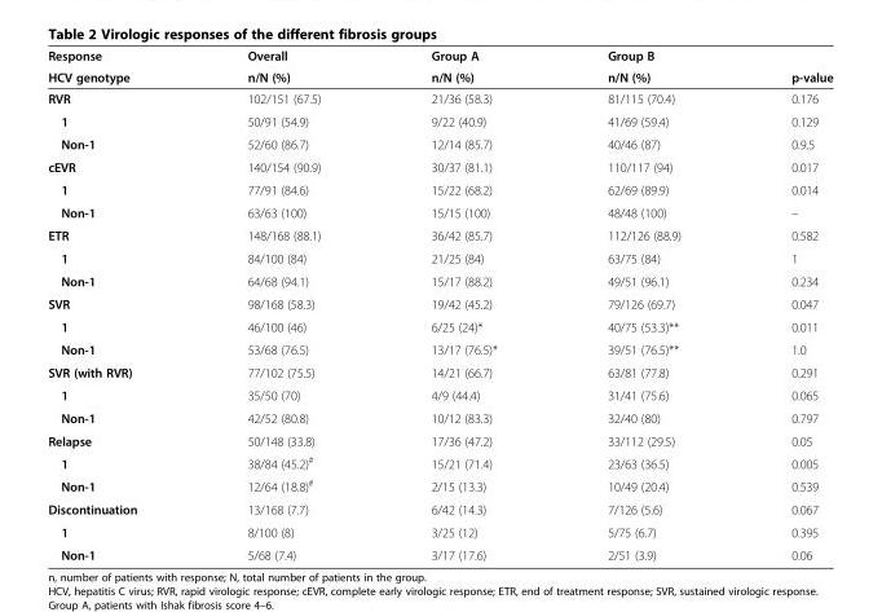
<table><thead><tr><td rowspan="2">Response HCV genotype</td><td rowspan="2">Overall n/N (%)</td><td rowspan="2">Group A n/N (%)</td><td rowspan="2">Group B n/N (%)</td><td rowspan="2">p-value</td></tr><tr></tr></thead><tbody><tr><td>RVR</td><td>102/151 (67.5)</td><td>21/36 (58.3)</td><td>81/115 (70.4)</td><td>0.176</td></tr><tr><td>1</td><td>50/91 (54.9)</td><td>9/22 (40.9)</td><td>41/69 (59.4)</td><td>0.129</td></tr><tr><td>Non-1</td><td>52/60 (86.7)</td><td>12/14 (85.7)</td><td>40/46 (87)</td><td>0.9.5</td></tr><tr><td>cEVR</td><td>140/154 (90.9)</td><td>30/37 (81.1)</td><td>110/117 (94)</td><td>0.017</td></tr><tr><td>1</td><td>77/91 (84.6)</td><td>15/22 (68.2)</td><td>62/69 (89.9)</td><td>0.014</td></tr><tr><td>Non-1</td><td>63/63 (100)</td><td>15/15 (100)</td><td>48/48 (100)</td><td>–</td></tr><tr><td>ETR</td><td>148/168 (88.1)</td><td>36/42 (85.7)</td><td>112/126 (88.9)</td><td>0.582</td></tr><tr><td>1</td><td>84/100 (84)</td><td>21/25 (84)</td><td>63/75 (84)</td><td>1</td></tr><tr><td>Non-1</td><td>64/68 (94.1)</td><td>15/17 (88.2)</td><td>49/51 (96.1)</td><td>0.234</td></tr><tr><td>SVR</td><td>98/168 (58.3)</td><td>19/42 (45.2)</td><td>79/126 (69.7)</td><td>0.047</td></tr><tr><td>1</td><td>46/100 (46)</td><td>6/25 (24)*</td><td>40/75 (53.3)**</td><td>0.011</td></tr><tr><td>Non-1</td><td>53/68 (76.5)</td><td>13/17 (76.5)*</td><td>39/51 (76.5)**</td><td>1.0</td></tr><tr><td>SVR (with RVR)</td><td>77/102 (75.5)</td><td>14/21 (66.7)</td><td>63/81 (77.8)</td><td>0.291</td></tr><tr><td>1</td><td>35/50 (70)</td><td>4/9 (44.4)</td><td>31/41 (75.6)</td><td>0.065</td></tr><tr><td>Non-1</td><td>42/52 (80.8)</td><td>10/12 (83.3)</td><td>32/40 (80)</td><td>0.797</td></tr><tr><td>Relapse</td><td>50/148 (33.8)</td><td>17/36 (47.2)</td><td>33/112 (29.5)</td><td>0.05</td></tr><tr><td>1</td><td>38/84 (45.2)<sup>#</sup></td><td>15/21 (71.4)</td><td>23/63 (36.5)</td><td>0.005</td></tr><tr><td>Non-1</td><td>12/64 (18.8)<sup>#</sup></td><td>2/15 (13.3)</td><td>10/49 (20.4)</td><td>0.539</td></tr><tr><td>Discontinuation</td><td>13/168 (7.7)</td><td>6/42 (14.3)</td><td>7/126 (5.6)</td><td>0.067</td></tr><tr><td>1</td><td>8/100 (8)</td><td>3/25 (12)</td><td>5/75 (6.7)</td><td>0.395</td></tr><tr><td>Non-1</td><td>5/68 (7.4)</td><td>3/17 (17.6)</td><td>2/51 (3.9)</td><td>0.06</td></tr></tbody></table>